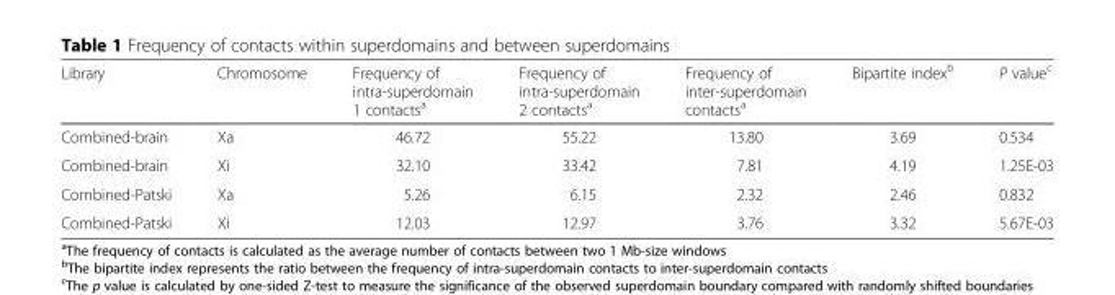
<table><thead><tr><td>Library</td><td>Chromosome</td><td>Frequency of intra-superdomain 1 contacts<sup>a</sup></td><td>Frequency of intra-superdomain 2 contacts<sup>a</sup></td><td>Frequency of inter-superdomain contacts<sup>a</sup></td><td>Bipartite index<sup>b</sup></td><td>P value<sup>c</sup></td></tr></thead><tbody><tr><td>Combined-brain</td><td>Xa</td><td>46.72</td><td>55.22</td><td>13.80</td><td>3.69</td><td>0.534</td></tr><tr><td>Combined-brain</td><td>Xi</td><td>32.10</td><td>33.42</td><td>7.81</td><td>4.19</td><td>1.25E-03</td></tr><tr><td>Combined-Patski</td><td>Xa</td><td>5.26</td><td>6.15</td><td>2.32</td><td>2.46</td><td>0.832</td></tr><tr><td>Combined-Patski</td><td>Xi</td><td>12.03</td><td>12.97</td><td>3.76</td><td>3.32</td><td>5.67E-03</td></tr></tbody></table>